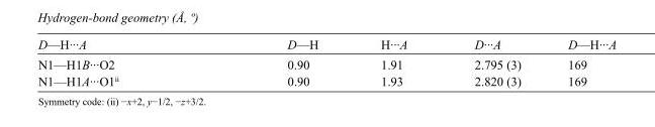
<table><tbody><tr><td>D—H···A</td><td>D—H</td><td>H···A</td><td>D···A</td><td>D—H···A</td></tr><tr><td>N1—H1B···O2</td><td>0.90</td><td>1.91</td><td>2.795 (3)</td><td>169</td></tr><tr><td>N1—H1A···O1<sup>ii</sup></td><td>0.90</td><td>1.93</td><td>2.820 (3)</td><td>169</td></tr></tbody></table>